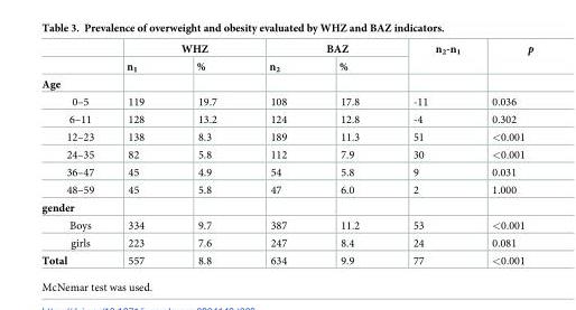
<table><thead><tr><td rowspan="2"></td><td colspan="2">WHZ</td><td colspan="2">BAZ</td><td rowspan="2">n<sub>2</sub>-n<sub>1</sub></td><td rowspan="2">p</td></tr><tr><td>n<sub>1</sub></td><td>%</td><td>n<sub>2</sub></td><td>%</td></tr></thead><tbody><tr><td colspan="7">Age</td></tr><tr><td>0–5</td><td>119</td><td>19.7</td><td>108</td><td>17.8</td><td>-11</td><td>0.036</td></tr><tr><td>6–11</td><td>128</td><td>13.2</td><td>124</td><td>12.8</td><td>-4</td><td>0.302</td></tr><tr><td>12–23</td><td>138</td><td>8.3</td><td>189</td><td>11.3</td><td>51</td><td>&lt;0.001</td></tr><tr><td>24–35</td><td>82</td><td>5.8</td><td>112</td><td>7.9</td><td>30</td><td>&lt;0.001</td></tr><tr><td>36–47</td><td>45</td><td>4.9</td><td>54</td><td>5.8</td><td>9</td><td>0.031</td></tr><tr><td>48–59</td><td>45</td><td>5.8</td><td>47</td><td>6.0</td><td>2</td><td>1.000</td></tr><tr><td colspan="7">gender</td></tr><tr><td>Boys</td><td>334</td><td>9.7</td><td>387</td><td>11.2</td><td>53</td><td>&lt;0.001</td></tr><tr><td>girls</td><td>223</td><td>7.6</td><td>247</td><td>8.4</td><td>24</td><td>0.081</td></tr><tr><td>Total</td><td>557</td><td>8.8</td><td>634</td><td>9.9</td><td>77</td><td>&lt;0.001</td></tr></tbody></table>